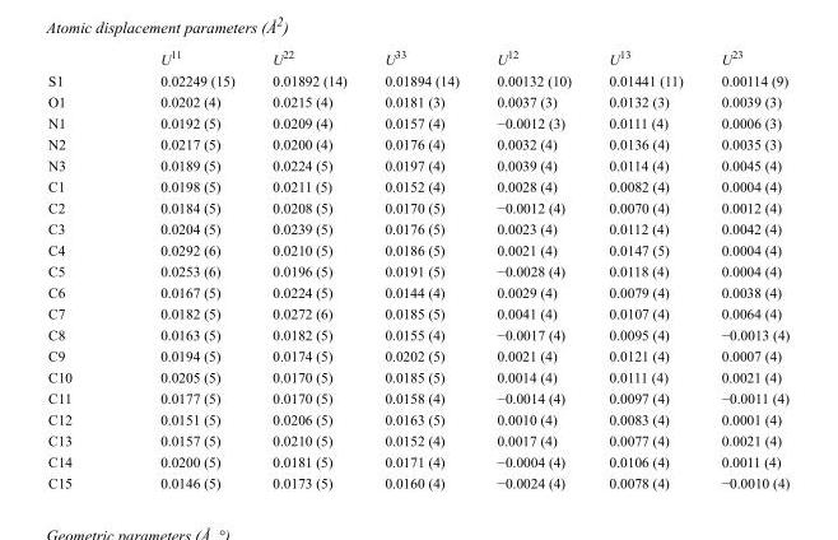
<table><thead><tr><td></td><td>U<sup>11</sup></td><td>U<sup>22</sup></td><td>U<sup>33</sup></td><td>U<sup>12</sup></td><td>U<sup>13</sup></td><td>U<sup>23</sup></td></tr></thead><tbody><tr><td>S1</td><td>0.02249 (15)</td><td>0.01892 (14)</td><td>0.01894 (14)</td><td>0.00132 (10)</td><td>0.01441 (11)</td><td>0.00114 (9)</td></tr><tr><td>O1</td><td>0.0202 (4)</td><td>0.0215 (4)</td><td>0.0181 (3)</td><td>0.0037 (3)</td><td>0.0132 (3)</td><td>0.0039 (3)</td></tr><tr><td>N1</td><td>0.0192 (5)</td><td>0.0209 (4)</td><td>0.0157 (4)</td><td>−0.0012 (3)</td><td>0.0111 (4)</td><td>0.0006 (3)</td></tr><tr><td>N2</td><td>0.0217 (5)</td><td>0.0200 (4)</td><td>0.0176 (4)</td><td>0.0032 (4)</td><td>0.0136 (4)</td><td>0.0035 (3)</td></tr><tr><td>N3</td><td>0.0189 (5)</td><td>0.0224 (5)</td><td>0.0197 (4)</td><td>0.0039 (4)</td><td>0.0114 (4)</td><td>0.0045 (4)</td></tr><tr><td>C1</td><td>0.0198 (5)</td><td>0.0211 (5)</td><td>0.0152 (4)</td><td>0.0028 (4)</td><td>0.0082 (4)</td><td>0.0004 (4)</td></tr><tr><td>C2</td><td>0.0184 (5)</td><td>0.0208 (5)</td><td>0.0170 (5)</td><td>−0.0012 (4)</td><td>0.0070 (4)</td><td>0.0012 (4)</td></tr><tr><td>C3</td><td>0.0204 (5)</td><td>0.0239 (5)</td><td>0.0176 (5)</td><td>0.0023 (4)</td><td>0.0112 (4)</td><td>0.0042 (4)</td></tr><tr><td>C4</td><td>0.0292 (6)</td><td>0.0210 (5)</td><td>0.0186 (5)</td><td>0.0021 (4)</td><td>0.0147 (5)</td><td>0.0004 (4)</td></tr><tr><td>C5</td><td>0.0253 (6)</td><td>0.0196 (5)</td><td>0.0191 (5)</td><td>−0.0028 (4)</td><td>0.0118 (4)</td><td>0.0004 (4)</td></tr><tr><td>C6</td><td>0.0167 (5)</td><td>0.0224 (5)</td><td>0.0144 (4)</td><td>0.0029 (4)</td><td>0.0079 (4)</td><td>0.0038 (4)</td></tr><tr><td>C7</td><td>0.0182 (5)</td><td>0.0272 (6)</td><td>0.0185 (5)</td><td>0.0041 (4)</td><td>0.0107 (4)</td><td>0.0064 (4)</td></tr><tr><td>C8</td><td>0.0163 (5)</td><td>0.0182 (5)</td><td>0.0155 (4)</td><td>−0.0017 (4)</td><td>0.0095 (4)</td><td>−0.0013 (4)</td></tr><tr><td>C9</td><td>0.0194 (5)</td><td>0.0174 (5)</td><td>0.0202 (5)</td><td>0.0021 (4)</td><td>0.0121 (4)</td><td>0.0007 (4)</td></tr><tr><td>C10</td><td>0.0205 (5)</td><td>0.0170 (5)</td><td>0.0185 (5)</td><td>0.0014 (4)</td><td>0.0111 (4)</td><td>0.0021 (4)</td></tr><tr><td>C11</td><td>0.0177 (5)</td><td>0.0170 (5)</td><td>0.0158 (4)</td><td>−0.0014 (4)</td><td>0.0097 (4)</td><td>−0.0011 (4)</td></tr><tr><td>C12</td><td>0.0151 (5)</td><td>0.0206 (5)</td><td>0.0163 (5)</td><td>0.0010 (4)</td><td>0.0083 (4)</td><td>0.0001 (4)</td></tr><tr><td>C13</td><td>0.0157 (5)</td><td>0.0210 (5)</td><td>0.0152 (4)</td><td>0.0017 (4)</td><td>0.0077 (4)</td><td>0.0021 (4)</td></tr><tr><td>C14</td><td>0.0200 (5)</td><td>0.0181 (5)</td><td>0.0171 (4)</td><td>−0.0004 (4)</td><td>0.0106 (4)</td><td>0.0011 (4)</td></tr><tr><td>C15</td><td>0.0146 (5)</td><td>0.0173 (5)</td><td>0.0160 (4)</td><td>−0.0024 (4)</td><td>0.0078 (4)</td><td>−0.0010 (4)</td></tr></tbody></table>